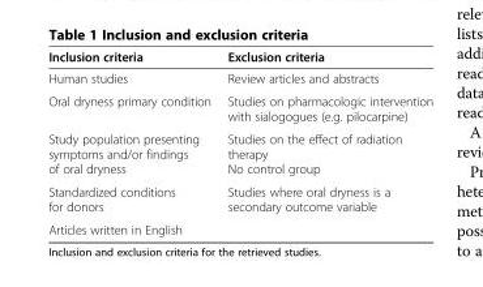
<table><thead><tr><td>Inclusion criteria</td><td>Exclusion criteria</td></tr></thead><tbody><tr><td>Human studies</td><td>Review articles and abstracts</td></tr><tr><td>Oral dryness primary condition</td><td>Studies on pharmacologic intervention with sialogogues (e.g. pilocarpine)</td></tr><tr><td>Study population presenting symptoms and/or findings of oral dryness</td><td>Studies on the effect of radiation therapy No control group</td></tr><tr><td>Standardized conditions for donors</td><td>Studies where oral dryness is a secondary outcome variable</td></tr><tr><td>Articles written in English</td><td></td></tr></tbody></table>